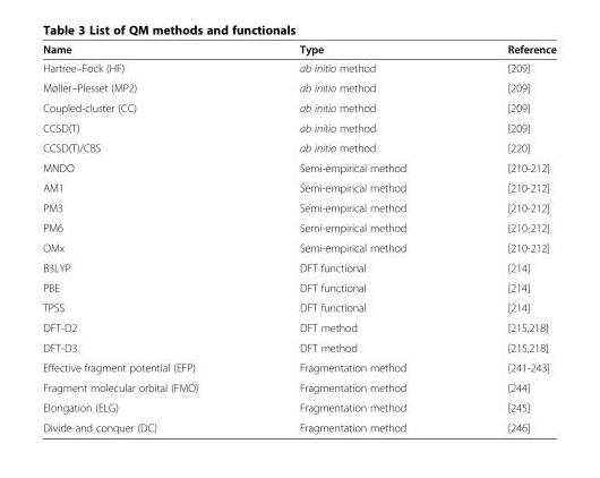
<table><thead><tr><td>Name</td><td>Type</td><td>Reference</td></tr></thead><tbody><tr><td>Hartree–Fock (HF)</td><td>ab initio method</td><td>[209]</td></tr><tr><td>Møller–Plesset (MP2)</td><td>ab initio method</td><td>[209]</td></tr><tr><td>Coupled-cluster (CC)</td><td>ab initio method</td><td>[209]</td></tr><tr><td>CCSD(T)</td><td>ab initio method</td><td>[209]</td></tr><tr><td>CCSD(T)/CBS</td><td>ab initio method</td><td>[220]</td></tr><tr><td>MNDO</td><td>Semi-empirical method</td><td>[210-212]</td></tr><tr><td>AM1</td><td>Semi-empirical method</td><td>[210-212]</td></tr><tr><td>PM3</td><td>Semi-empirical method</td><td>[210-212]</td></tr><tr><td>PM6</td><td>Semi-empirical method</td><td>[210-212]</td></tr><tr><td>OMx</td><td>Semi-empirical method</td><td>[210-212]</td></tr><tr><td>B3LYP</td><td>DFT functional</td><td>[214]</td></tr><tr><td>PBE</td><td>DFT functional</td><td>[214]</td></tr><tr><td>TPSS</td><td>DFT functional</td><td>[214]</td></tr><tr><td>DFT-D2</td><td>DFT method</td><td>[215,218]</td></tr><tr><td>DFT-D3</td><td>DFT method</td><td>[215,218]</td></tr><tr><td>Effective fragment potential (EFP)</td><td>Fragmentation method</td><td>[241-243]</td></tr><tr><td>Fragment molecular orbital (FMO)</td><td>Fragmentation method</td><td>[244]</td></tr><tr><td>Elongation (ELG)</td><td>Fragmentation method</td><td>[245]</td></tr><tr><td>Divide and conquer (DC)</td><td>Fragmentation method</td><td>[246]</td></tr></tbody></table>